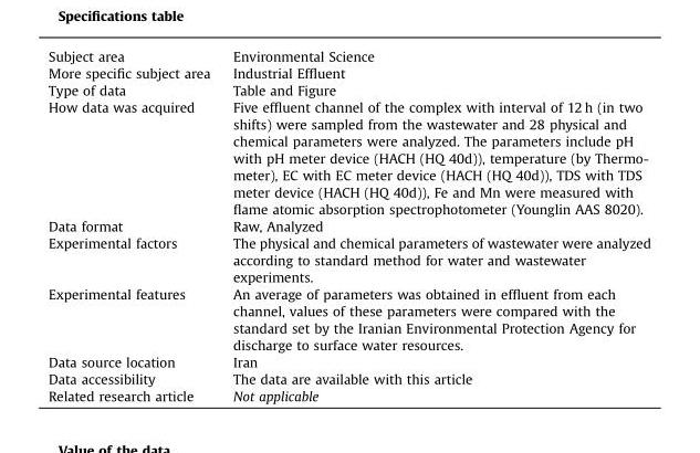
<table><tbody><tr><td>Subject area</td><td>Environmental Science</td></tr><tr><td>More specific subject area</td><td>Industrial Effluent</td></tr><tr><td>Type of data</td><td>Table and Figure</td></tr><tr><td>How data was acquired</td><td>Five effluent channel of the complex with interval of 12 h (in two shifts) were sampled from the wastewater and 28 physical and chemical parameters were analyzed. The parameters include pH with pH meter device (HACH (HQ 40d)), temperature (by Thermo- meter), EC with EC meter device (HACH (HQ 40d)), TDS with TDS meter device (HACH (HQ 40d)), Fe and Mn were measured with flame atomic absorption spectrophotometer (Younglin AAS 8020).</td></tr><tr><td>Data format</td><td>Raw, Analyzed</td></tr><tr><td>Experimental factors</td><td>The physical and chemical parameters of wastewater were analyzed according to standard method for water and wastewater experiments.</td></tr><tr><td>Experimental features</td><td>An average of parameters was obtained in effluent from each channel, values of these parameters were compared with the standard set by the Iranian Environmental Protection Agency for discharge to surface water resources.</td></tr><tr><td>Data source location</td><td>Iran</td></tr><tr><td>Data accessibility</td><td>The data are available with this article</td></tr><tr><td>Related research article</td><td>Not applicable</td></tr></tbody></table>